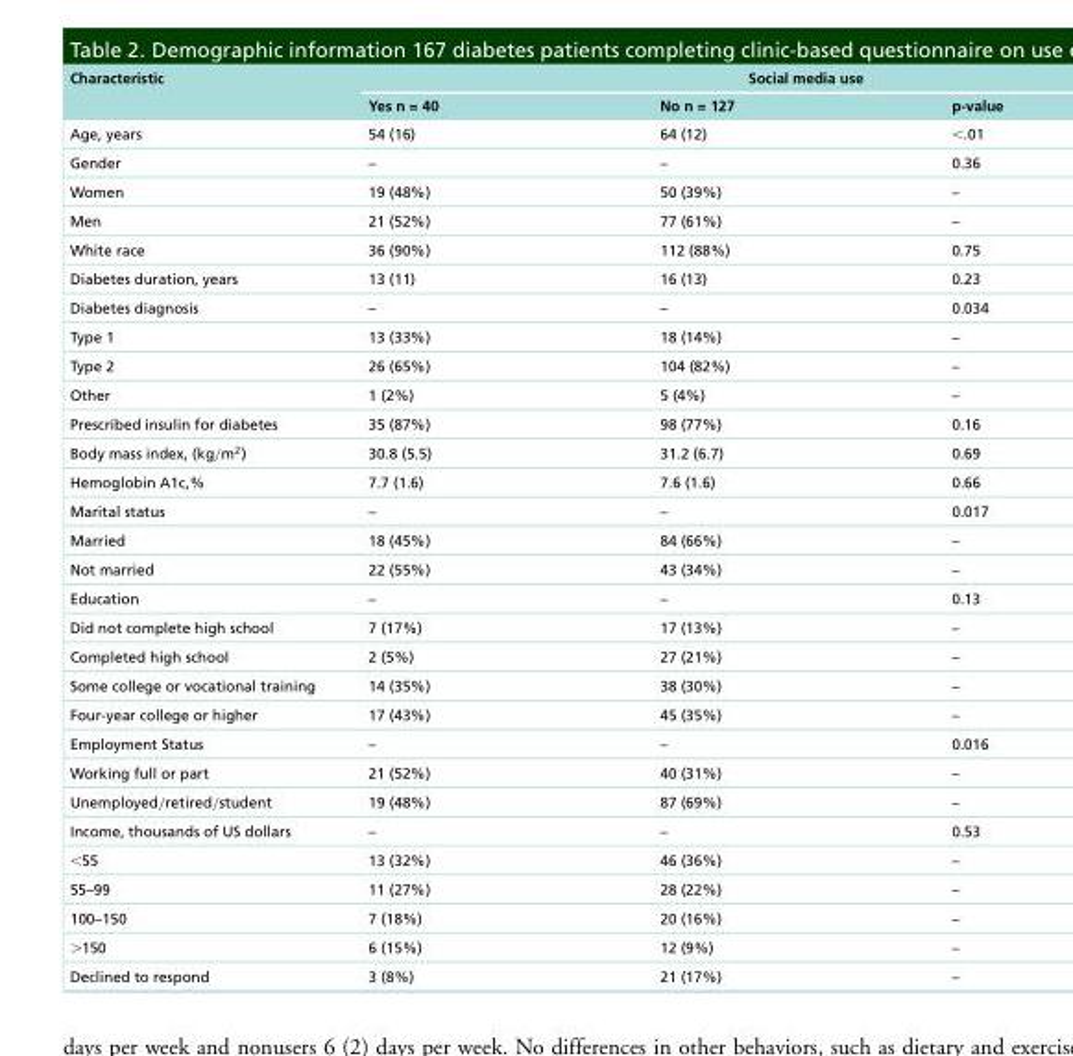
<table><thead><tr><td rowspan="2">Characteristic</td><td colspan="3">Social media use</td></tr><tr><td>Yes n = 40</td><td>No n = 127</td><td>p-value</td></tr></thead><tbody><tr><td>Age, years</td><td>54 (16)</td><td>64 (12)</td><td>&lt;.01</td></tr><tr><td>Gender</td><td>–</td><td>–</td><td>0.36</td></tr><tr><td>Women</td><td>19 (48%)</td><td>50 (39%)</td><td>–</td></tr><tr><td>Men</td><td>21 (52%)</td><td>77 (61%)</td><td>–</td></tr><tr><td>White race</td><td>36 (90%)</td><td>112 (88%)</td><td>0.75</td></tr><tr><td>Diabetes duration, years</td><td>13 (11)</td><td>16 (13)</td><td>0.23</td></tr><tr><td>Diabetes diagnosis</td><td>–</td><td>–</td><td>0.034</td></tr><tr><td>Type 1</td><td>13 (33%)</td><td>18 (14%)</td><td>–</td></tr><tr><td>Type 2</td><td>26 (65%)</td><td>104 (82%)</td><td>–</td></tr><tr><td>Other</td><td>1 (2%)</td><td>5 (4%)</td><td>–</td></tr><tr><td>Prescribed insulin for diabetes</td><td>35 (87%)</td><td>98 (77%)</td><td>0.16</td></tr><tr><td>Body mass index, (kg/m<sup>2</sup>)</td><td>30.8 (5.5)</td><td>31.2 (6.7)</td><td>0.69</td></tr><tr><td>Hemoglobin A1c,%</td><td>7.7 (1.6)</td><td>7.6 (1.6)</td><td>0.66</td></tr><tr><td>Marital status</td><td>–</td><td>–</td><td>0.017</td></tr><tr><td>Married</td><td>18 (45%)</td><td>84 (66%)</td><td>–</td></tr><tr><td>Not married</td><td>22 (55%)</td><td>43 (34%)</td><td>–</td></tr><tr><td>Education</td><td>–</td><td>–</td><td>0.13</td></tr><tr><td>Did not complete high school</td><td>7 (17%)</td><td>17 (13%)</td><td>–</td></tr><tr><td>Completed high school</td><td>2 (5%)</td><td>27 (21%)</td><td>–</td></tr><tr><td>Some college or vocational training</td><td>14 (35%)</td><td>38 (30%)</td><td>–</td></tr><tr><td>Four-year college or higher</td><td>17 (43%)</td><td>45 (35%)</td><td>–</td></tr><tr><td>Employment Status</td><td>–</td><td>–</td><td>0.016</td></tr><tr><td>Working full or part</td><td>21 (52%)</td><td>40 (31%)</td><td>–</td></tr><tr><td>Unemployed/retired/student</td><td>19 (48%)</td><td>87 (69%)</td><td>–</td></tr><tr><td>Income, thousands of US dollars</td><td>–</td><td>–</td><td>0.53</td></tr><tr><td>&lt;55</td><td>13 (32%)</td><td>46 (36%)</td><td>–</td></tr><tr><td>55–99</td><td>11 (27%)</td><td>28 (22%)</td><td>–</td></tr><tr><td>100–150</td><td>7 (18%)</td><td>20 (16%)</td><td>–</td></tr><tr><td>&gt;150</td><td>6 (15%)</td><td>12 (9%)</td><td>–</td></tr><tr><td>Declined to respond</td><td>3 (8%)</td><td>21 (17%)</td><td>–</td></tr></tbody></table>